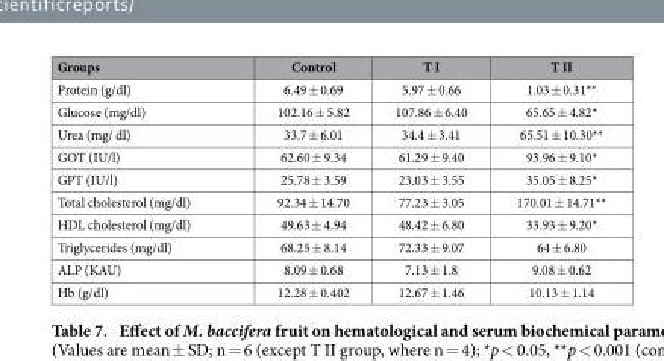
<table><thead><tr><td>Groups</td><td>Control</td><td>T I</td><td>T II</td></tr></thead><tbody><tr><td>Protein (g/dl)</td><td>6.49 ± 0.69</td><td>5.97 ± 0.66</td><td>1.03 ± 0.31**</td></tr><tr><td>Glucose (mg/dl)</td><td>102.16 ± 5.82</td><td>107.86 ± 6.40</td><td>65.65 ± 4.82*</td></tr><tr><td>Urea (mg/ dl)</td><td>33.7 ± 6.01</td><td>34.4 ± 3.41</td><td>65.51 ± 10.30**</td></tr><tr><td>GOT (IU/l)</td><td>62.60 ± 9.34</td><td>61.29 ± 9.40</td><td>93.96 ± 9.10*</td></tr><tr><td>GPT (IU/l)</td><td>25.78 ± 3.59</td><td>23.03 ± 3.55</td><td>35.05 ± 8.25*</td></tr><tr><td>Total cholesterol (mg/dl)</td><td>92.34 ± 14.70</td><td>77.23 ± 3.05</td><td>170.01 ± 14.71**</td></tr><tr><td>HDL cholesterol (mg/dl)</td><td>49.63 ± 4.94</td><td>48.42 ± 6.80</td><td>33.93 ± 9.20*</td></tr><tr><td>Triglycerides (mg/dl)</td><td>68.25 ± 8.14</td><td>72.33 ± 9.07</td><td>64 ± 6.80</td></tr><tr><td>ALP (KAU)</td><td>8.09 ± 0.68</td><td>7.13 ± 1.8</td><td>9.08 ± 0.62</td></tr><tr><td>Hb (g/dl)</td><td>12.28 ± 0.402</td><td>12.67 ± 1.46</td><td>10.13 ± 1.14</td></tr></tbody></table>